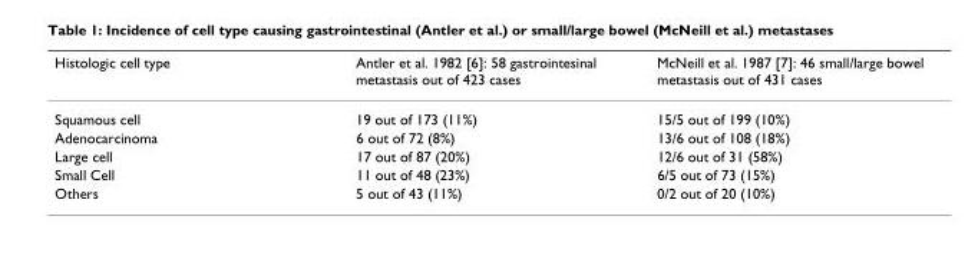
<table><thead><tr><td>Histologic cell type</td><td>Antler et al. 1982 [6]: 58 gastrointesinal metastasis out of 423 cases</td><td>McNeill et al. 1987 [7]: 46 small/large bowel metastasis out of 431 cases</td></tr></thead><tbody><tr><td>Squamous cell</td><td>19 out of 173 (11%)</td><td>15/5 out of 199 (10%)</td></tr><tr><td>Adenocarcinoma</td><td>6 out of 72 (8%)</td><td>13/6 out of 108 (18%)</td></tr><tr><td>Large cell</td><td>17 out of 87 (20%)</td><td>12/6 out of 31 (58%)</td></tr><tr><td>Small Cell</td><td>11 out of 48 (23%)</td><td>6/5 out of 73 (15%)</td></tr><tr><td>Others</td><td>5 out of 43 (11%)</td><td>0/2 out of 20 (10%)</td></tr></tbody></table>